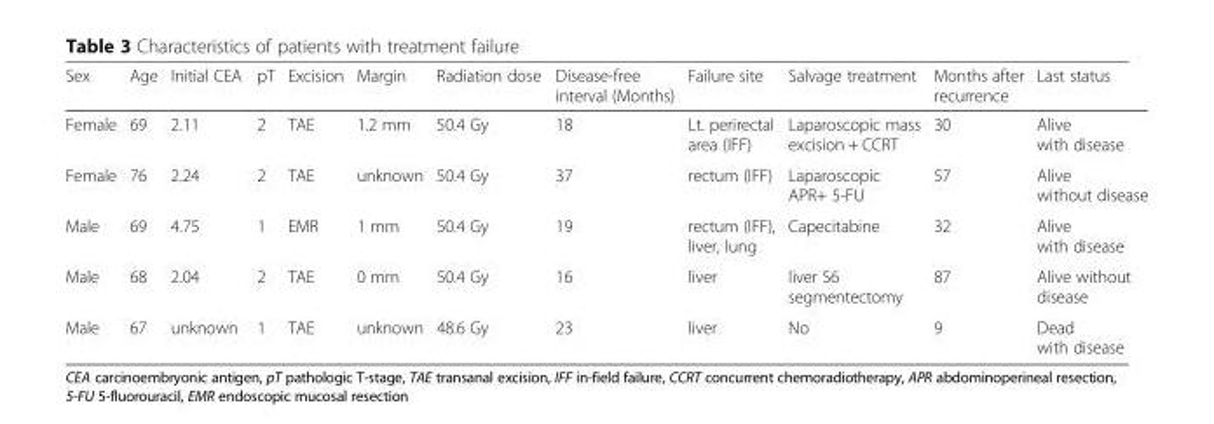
<table><thead><tr><td>Sex</td><td>Age</td><td>Initial CEA</td><td>pT</td><td>Excision</td><td>Margin</td><td>Radiation dose</td><td>Disease-free interval (Months)</td><td>Failure site</td><td>Salvage treatment</td><td>Months after recurrence</td><td>Last status</td></tr></thead><tbody><tr><td>Female</td><td>69</td><td>2.11</td><td>2</td><td>TAE</td><td>1.2 mm</td><td>50.4 Gy</td><td>18</td><td>Lt. perirectal area (IFF)</td><td>Laparoscopic mass excision + CCRT</td><td>30</td><td>Alive with disease</td></tr><tr><td>Female</td><td>76</td><td>2.24</td><td>2</td><td>TAE</td><td>unknown</td><td>50.4 Gy</td><td>37</td><td>rectum (IFF)</td><td>Laparoscopic APR+ 5-FU</td><td>57</td><td>Alive without disease</td></tr><tr><td>Male</td><td>69</td><td>4.75</td><td>1</td><td>EMR</td><td>1 mm</td><td>50.4 Gy</td><td>19</td><td>rectum (IFF), liver, lung</td><td>Capecitabine</td><td>32</td><td>Alive with disease</td></tr><tr><td>Male</td><td>68</td><td>2.04</td><td>2</td><td>TAE</td><td>0 mm</td><td>50.4 Gy</td><td>16</td><td>liver</td><td>liver S6 segmentectomy</td><td>87</td><td>Alive without disease</td></tr><tr><td>Male</td><td>67</td><td>unknown</td><td>1</td><td>TAE</td><td>unknown</td><td>48.6 Gy</td><td>23</td><td>liver</td><td>No</td><td>9</td><td>Dead with disease</td></tr></tbody></table>